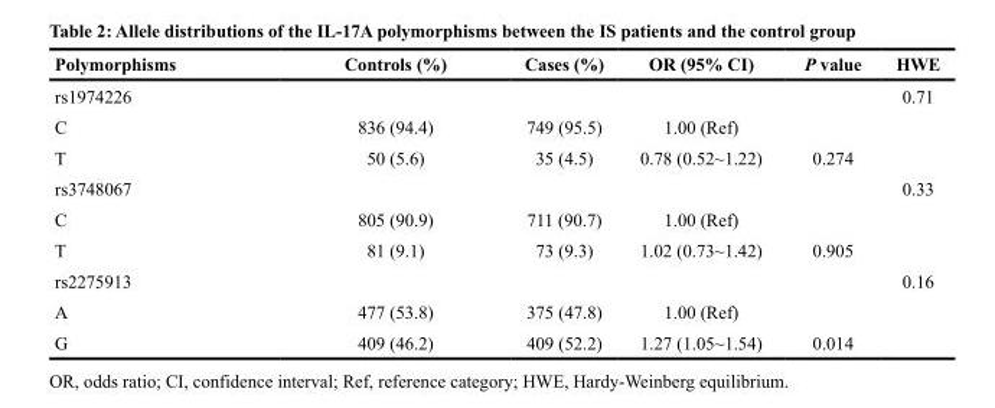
<table><thead><tr><td>Polymorphisms</td><td>Controls (%)</td><td>Cases (%)</td><td>OR (95% CI)</td><td>P value</td><td>HWE</td></tr></thead><tbody><tr><td>rs1974226</td><td></td><td></td><td></td><td></td><td>0.71</td></tr><tr><td>C</td><td>836 (94.4)</td><td>749 (95.5)</td><td>1.00 (Ref)</td><td></td><td></td></tr><tr><td>T</td><td>50 (5.6)</td><td>35 (4.5)</td><td>0.78 (0.52~1.22)</td><td>0.274</td><td></td></tr><tr><td>rs3748067</td><td></td><td></td><td></td><td></td><td>0.33</td></tr><tr><td>C</td><td>805 (90.9)</td><td>711 (90.7)</td><td>1.00 (Ref)</td><td></td><td></td></tr><tr><td>T</td><td>81 (9.1)</td><td>73 (9.3)</td><td>1.02 (0.73~1.42)</td><td>0.905</td><td></td></tr><tr><td>rs2275913</td><td></td><td></td><td></td><td></td><td>0.16</td></tr><tr><td>A</td><td>477 (53.8)</td><td>375 (47.8)</td><td>1.00 (Ref)</td><td></td><td></td></tr><tr><td>G</td><td>409 (46.2)</td><td>409 (52.2)</td><td>1.27 (1.05~1.54)</td><td>0.014</td><td></td></tr></tbody></table>